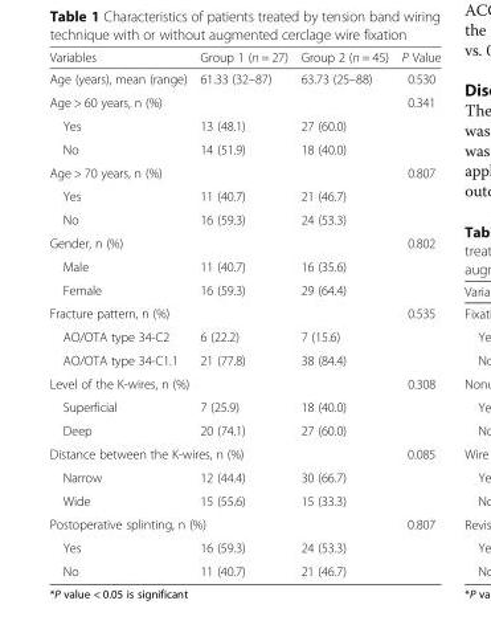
<table><thead><tr><td>Variables</td><td>Group 1 (n = 27)</td><td>Group 2 (n = 45)</td><td>P Value</td></tr></thead><tbody><tr><td>Age (years), mean (range)</td><td>61.33 (32–87)</td><td>63.73 (25–88)</td><td>0.530</td></tr><tr><td colspan="3">Age &gt; 60 years, n (%)</td><td>0.341</td></tr><tr><td>Yes</td><td>13 (48.1)</td><td>27 (60.0)</td><td></td></tr><tr><td>No</td><td>14 (51.9)</td><td>18 (40.0)</td><td></td></tr><tr><td colspan="3">Age &gt; 70 years, n (%)</td><td>0.807</td></tr><tr><td>Yes</td><td>11 (40.7)</td><td>21 (46.7)</td><td></td></tr><tr><td>No</td><td>16 (59.3)</td><td>24 (53.3)</td><td></td></tr><tr><td colspan="3">Gender, n (%)</td><td>0.802</td></tr><tr><td>Male</td><td>11 (40.7)</td><td>16 (35.6)</td><td></td></tr><tr><td>Female</td><td>16 (59.3)</td><td>29 (64.4)</td><td></td></tr><tr><td colspan="3">Fracture pattern, n (%)</td><td>0.535</td></tr><tr><td>AO/OTA type 34-C2</td><td>6 (22.2)</td><td>7 (15.6)</td><td></td></tr><tr><td>AO/OTA type 34-C1.1</td><td>21 (77.8)</td><td>38 (84.4)</td><td></td></tr><tr><td colspan="3">Level of the K-wires, n (%)</td><td>0.308</td></tr><tr><td>Superficial</td><td>7 (25.9)</td><td>18 (40.0)</td><td></td></tr><tr><td>Deep</td><td>20 (74.1)</td><td>27 (60.0)</td><td></td></tr><tr><td colspan="3">Distance between the K-wires, n (%)</td><td>0.085</td></tr><tr><td>Narrow</td><td>12 (44.4)</td><td>30 (66.7)</td><td></td></tr><tr><td>Wide</td><td>15 (55.6)</td><td>15 (33.3)</td><td></td></tr><tr><td colspan="3">Postoperative splinting, n (%)</td><td>0.807</td></tr><tr><td>Yes</td><td>16 (59.3)</td><td>24 (53.3)</td><td></td></tr><tr><td>No</td><td>11 (40.7)</td><td>21 (46.7)</td><td></td></tr></tbody></table>